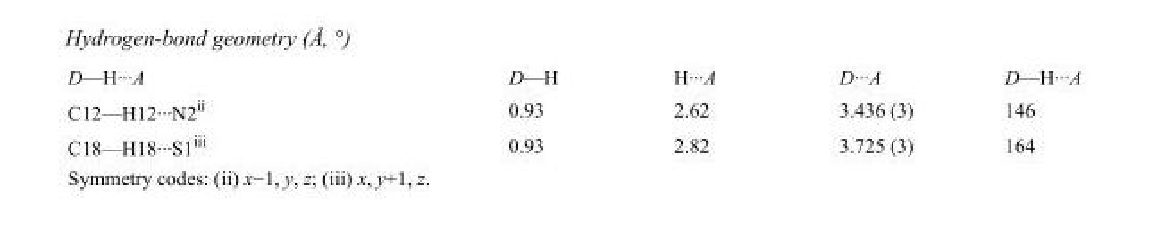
<table><tbody><tr><td>D—H···A</td><td>D—H</td><td>H···A</td><td>D···A</td><td>D—H···A</td></tr><tr><td>C12—H12···N2<sup>ii</sup></td><td>0.93</td><td>2.62</td><td>3.436 (3)</td><td>146</td></tr><tr><td>C18—H18···S1<sup>iii</sup></td><td>0.93</td><td>2.82</td><td>3.725 (3)</td><td>164</td></tr></tbody></table>